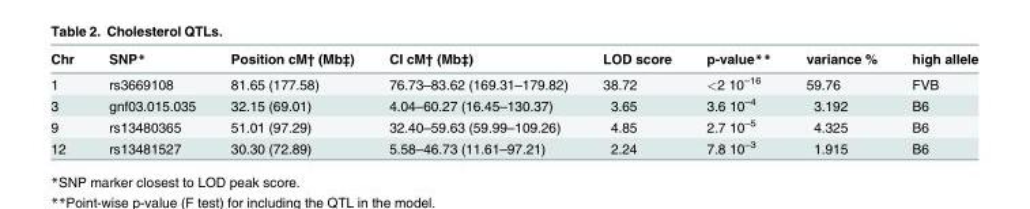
<table><thead><tr><td>Chr</td><td>SNP*</td><td>Position cM† (Mb‡)</td><td>CI cM† (Mb‡)</td><td>LOD score</td><td>p-value**</td><td>variance %</td><td>high allele</td></tr></thead><tbody><tr><td>1</td><td>rs3669108</td><td>81.65 (177.58)</td><td>76.73–83.62 (169.31–179.82)</td><td>38.72</td><td>&lt;2 10<sup>–16</sup></td><td>59.76</td><td>FVB</td></tr><tr><td>3</td><td>gnf03.015.035</td><td>32.15 (69.01)</td><td>4.04–60.27 (16.45–130.37)</td><td>3.65</td><td>3.6 10<sup>–4</sup></td><td>3.192</td><td>B6</td></tr><tr><td>9</td><td>rs13480365</td><td>51.01 (97.29)</td><td>32.40–59.63 (59.99–109.26)</td><td>4.85</td><td>2.7 10<sup>–5</sup></td><td>4.325</td><td>B6</td></tr><tr><td>12</td><td>rs13481527</td><td>30.30 (72.89)</td><td>5.58–46.73 (11.61–97.21)</td><td>2.24</td><td>7.8 10<sup>–3</sup></td><td>1.915</td><td>B6</td></tr></tbody></table>